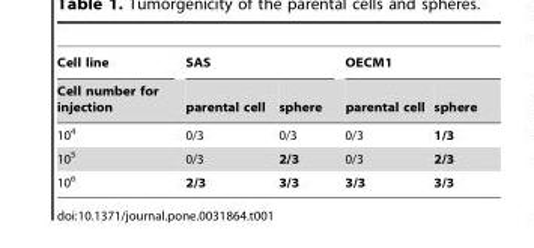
<table><thead><tr><td rowspan="2">Cell line Cell number for injection</td><td colspan="2">SAS</td><td colspan="2">OECM1</td></tr><tr><td>parental cell</td><td>sphere</td><td>parental cell</td><td>sphere</td></tr></thead><tbody><tr><td>10<sup>4</sup></td><td>0/3</td><td>0/3</td><td>0/3</td><td>1/3</td></tr><tr><td>10<sup>5</sup></td><td>0/3</td><td>2/3</td><td>0/3</td><td>2/3</td></tr><tr><td>10<sup>6</sup></td><td>2/3</td><td>3/3</td><td>3/3</td><td>3/3</td></tr></tbody></table>